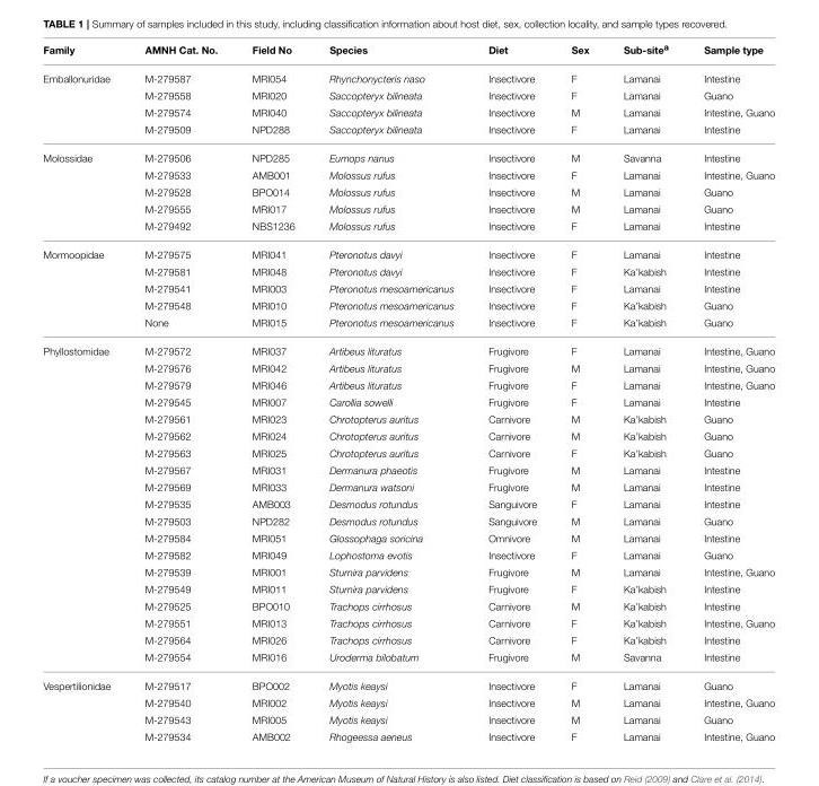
<table><thead><tr><td>Family</td><td>AMNH Cat. No.</td><td>Field No</td><td>Species</td><td>Diet</td><td>Sex</td><td>Sub-site<sup>a</sup></td><td>Sample type</td></tr></thead><tbody><tr><td rowspan="4">Emballonuridae</td><td>M-279587</td><td>MRI054</td><td>Rhynchonycteris naso</td><td>Insectivore</td><td>F</td><td>Lamanai</td><td>Intestine</td></tr><tr><td>M-279558</td><td>MRI020</td><td>Saccopteryx bilineata</td><td>Insectivore</td><td>F</td><td>Lamanai</td><td>Guano</td></tr><tr><td>M-279574</td><td>MRI040</td><td>Saccopteryx bilineata</td><td>Insectivore</td><td>M</td><td>Lamanai</td><td>Intestine, Guano</td></tr><tr><td>M-279509</td><td>NPD288</td><td>Saccopteryx bilineata</td><td>Insectivore</td><td>F</td><td>Lamanai</td><td>Intestine</td></tr><tr><td rowspan="5">Molossidae</td><td>M-279506</td><td>NPD285</td><td>Eumops nanus</td><td>Insectivore</td><td>M</td><td>Savanna</td><td>Intestine</td></tr><tr><td>M-279533</td><td>AMB001</td><td>Molossus rufus</td><td>Insectivore</td><td>F</td><td>Lamanai</td><td>Intestine, Guano</td></tr><tr><td>M-279528</td><td>BPO014</td><td>Molossus rufus</td><td>Insectivore</td><td>M</td><td>Lamanai</td><td>Guano</td></tr><tr><td>M-279555</td><td>MRI017</td><td>Molossus rufus</td><td>Insectivore</td><td>M</td><td>Lamanai</td><td>Guano</td></tr><tr><td>M-279492</td><td>NBS1236</td><td>Molossus rufus</td><td>Insectivore</td><td>F</td><td>Lamanai</td><td>Intestine</td></tr><tr><td rowspan="5">Mormoopidae</td><td>M-279575</td><td>MRI041</td><td>Pteronotus davyi</td><td>Insectivore</td><td>F</td><td>Lamanai</td><td>Intestine</td></tr><tr><td>M-279581</td><td>MRI048</td><td>Pteronotus davyi</td><td>Insectivore</td><td>F</td><td>Ka’kabish</td><td>Intestine</td></tr><tr><td>M-279541</td><td>MRI003</td><td>Pteronotus mesoamericanus</td><td>Insectivore</td><td>F</td><td>Lamanai</td><td>Intestine</td></tr><tr><td>M-279548</td><td>MRI010</td><td>Pteronotus mesoamericanus</td><td>Insectivore</td><td>F</td><td>Ka’kabish</td><td>Guano</td></tr><tr><td>None</td><td>MRI015</td><td>Pteronotus mesoamericanus</td><td>Insectivore</td><td>F</td><td>Ka’kabish</td><td>Guano</td></tr><tr><td rowspan="19">Phyllostomidae</td><td>M-279572</td><td>MRI037</td><td>Artibeus lituratus</td><td>Frugivore</td><td>F</td><td>Lamanai</td><td>Intestine, Guano</td></tr><tr><td>M-279576</td><td>MRI042</td><td>Artibeus lituratus</td><td>Frugivore</td><td>M</td><td>Lamanai</td><td>Intestine, Guano</td></tr><tr><td>M-279579</td><td>MRI046</td><td>Artibeus lituratus</td><td>Frugivore</td><td>F</td><td>Lamanai</td><td>Intestine, Guano</td></tr><tr><td>M-279545</td><td>MRI007</td><td>Carollia sowelli</td><td>Frugivore</td><td>F</td><td>Lamanai</td><td>Intestine</td></tr><tr><td>M-279561</td><td>MRI023</td><td>Chrotopterus auritus</td><td>Carnivore</td><td>M</td><td>Ka’kabish</td><td>Guano</td></tr><tr><td>M-279562</td><td>MRI024</td><td>Chrotopterus auritus</td><td>Carnivore</td><td>M</td><td>Ka’kabish</td><td>Guano</td></tr><tr><td>M-279563</td><td>MRI025</td><td>Chrotopterus auritus</td><td>Carnivore</td><td>F</td><td>Ka’kabish</td><td>Guano</td></tr><tr><td>M-279567</td><td>MRI031</td><td>Dermanura phaeotis</td><td>Frugivore</td><td>M</td><td>Lamanai</td><td>Intestine</td></tr><tr><td>M-279569</td><td>MRI033</td><td>Dermanura watsoni</td><td>Frugivore</td><td>M</td><td>Lamanai</td><td>Intestine</td></tr><tr><td>M-279535</td><td>AMB003</td><td>Desmodus rotundus</td><td>Sanguivore</td><td>F</td><td>Lamanai</td><td>Intestine</td></tr><tr><td>M-279503</td><td>NPD282</td><td>Desmodus rotundus</td><td>Sanguivore</td><td>M</td><td>Lamanai</td><td>Guano</td></tr><tr><td>M-279584</td><td>MRI051</td><td>Glossophaga soricina</td><td>Omnivore</td><td>M</td><td>Lamanai</td><td>Intestine</td></tr><tr><td>M-279582</td><td>MRI049</td><td>Lophostoma evotis</td><td>Insectivore</td><td>F</td><td>Lamanai</td><td>Guano</td></tr><tr><td>M-279539</td><td>MRI001</td><td>Sturnira parvidens</td><td>Frugivore</td><td>M</td><td>Lamanai</td><td>Intestine, Guano</td></tr><tr><td>M-279549</td><td>MRI011</td><td>Sturnira parvidens</td><td>Frugivore</td><td>F</td><td>Ka’kabish</td><td>Intestine</td></tr><tr><td>M-279525</td><td>BPO010</td><td>Trachops cirrhosus</td><td>Carnivore</td><td>M</td><td>Ka’kabish</td><td>Intestine</td></tr><tr><td>M-279551</td><td>MRI013</td><td>Trachops cirrhosus</td><td>Carnivore</td><td>F</td><td>Ka’kabish</td><td>Intestine, Guano</td></tr><tr><td>M-279564</td><td>MRI026</td><td>Trachops cirrhosus</td><td>Carnivore</td><td>F</td><td>Ka’kabish</td><td>Intestine</td></tr><tr><td>M-279554</td><td>MRI016</td><td>Uroderma bilobatum</td><td>Frugivore</td><td>M</td><td>Savanna</td><td>Intestine</td></tr><tr><td rowspan="4">Vespertilionidae</td><td>M-279517</td><td>BPO002</td><td>Myotis keaysi</td><td>Insectivore</td><td>F</td><td>Lamanai</td><td>Guano</td></tr><tr><td>M-279540</td><td>MRI002</td><td>Myotis keaysi</td><td>Insectivore</td><td>M</td><td>Lamanai</td><td>Intestine, Guano</td></tr><tr><td>M-279543</td><td>MRI005</td><td>Myotis keaysi</td><td>Insectivore</td><td>M</td><td>Lamanai</td><td>Guano</td></tr><tr><td>M-279534</td><td>AMB002</td><td>Rhogeessa aeneus</td><td>Insectivore</td><td>F</td><td>Lamanai</td><td>Intestine, Guano</td></tr></tbody></table>